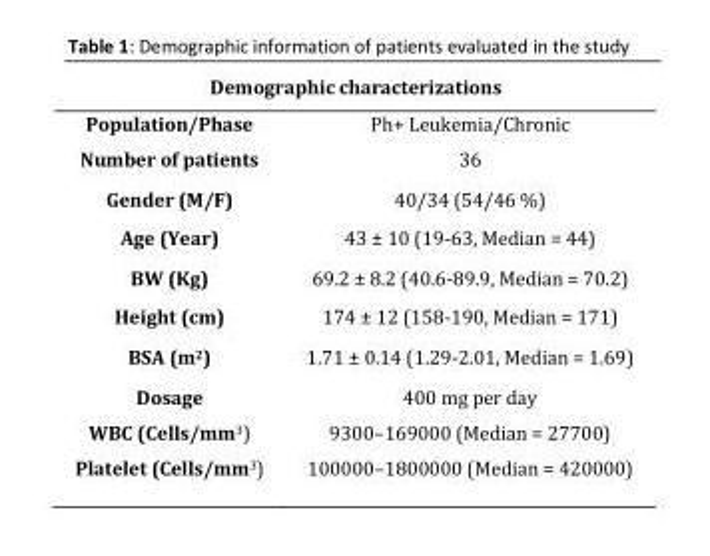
<table><thead><tr><td colspan="2">Demographic characterizations</td></tr><tr><td>Population/Phase</td><td>Ph+ Leukemia/Chronic</td></tr></thead><tbody><tr><td>Number of patients</td><td>36</td></tr><tr><td>Gender (M/F)</td><td>40/34 (54/46 %)</td></tr><tr><td>Age (Year)</td><td>43 ± 10 (19-63, Median = 44)</td></tr><tr><td>BW (Kg)</td><td>69.2 ± 8.2 (40.6-89.9, Median = 70.2)</td></tr><tr><td>Height (cm)</td><td>174 ± 12 (158-190, Median = 171)</td></tr><tr><td>BSA (m<sup>2</sup>)</td><td>1.71 ± 0.14 (1.29-2.01, Median = 1.69)</td></tr><tr><td>Dosage WBC (Cells/mm<sup>3</sup>) Platelet (Cells/mm<sup>3</sup>)</td><td>400 mg per day 9300–169000 (Median = 27700) 100000–1800000 (Median = 420000)</td></tr></tbody></table>